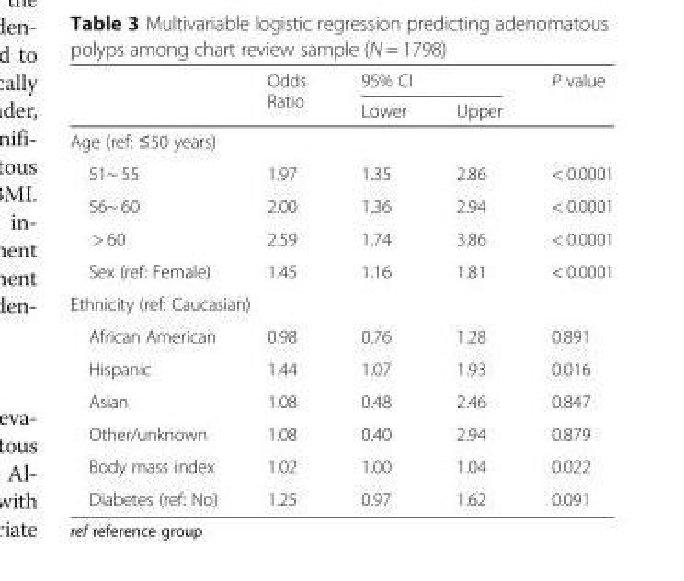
<table><thead><tr><td rowspan="2"></td><td rowspan="2">Odds Ratio</td><td colspan="2">95% CI</td><td rowspan="2">P value</td></tr><tr><td>Lower</td><td>Upper</td></tr></thead><tbody><tr><td colspan="5">Age (ref: ≤50 years)</td></tr><tr><td>51~ 55</td><td>1.97</td><td>1.35</td><td>2.86</td><td>&lt; 0.0001</td></tr><tr><td>56~ 60</td><td>2.00</td><td>1.36</td><td>2.94</td><td>&lt; 0.0001</td></tr><tr><td>&gt; 60</td><td>2.59</td><td>1.74</td><td>3.86</td><td>&lt; 0.0001</td></tr><tr><td>Sex (ref: Female)</td><td>1.45</td><td>1.16</td><td>1.81</td><td>&lt; 0.0001</td></tr><tr><td colspan="5">Ethnicity (ref: Caucasian)</td></tr><tr><td>African American</td><td>0.98</td><td>0.76</td><td>1.28</td><td>0.891</td></tr><tr><td>Hispanic</td><td>1.44</td><td>1.07</td><td>1.93</td><td>0.016</td></tr><tr><td>Asian</td><td>1.08</td><td>0.48</td><td>2.46</td><td>0.847</td></tr><tr><td>Other/unknown</td><td>1.08</td><td>0.40</td><td>2.94</td><td>0.879</td></tr><tr><td>Body mass index</td><td>1.02</td><td>1.00</td><td>1.04</td><td>0.022</td></tr><tr><td>Diabetes (ref: No)</td><td>1.25</td><td>0.97</td><td>1.62</td><td>0.091</td></tr></tbody></table>